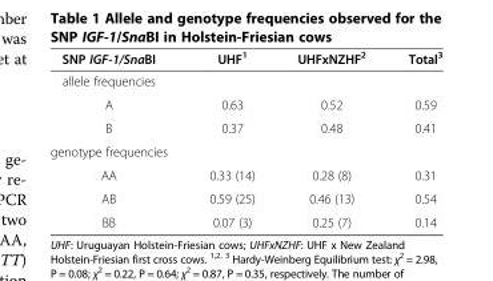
<table><thead><tr><td>SNP IGF-1/SnaBI</td><td>UHF<sup>1</sup></td><td>UHFxNZHF<sup>2</sup></td><td>Total<sup>3</sup></td></tr></thead><tbody><tr><td colspan="4">allele frequencies</td></tr><tr><td>A</td><td>0.63</td><td>0.52</td><td>0.59</td></tr><tr><td>B</td><td>0.37</td><td>0.48</td><td>0.41</td></tr><tr><td colspan="4">genotype frequencies</td></tr><tr><td>AA</td><td>0.33 (14)</td><td>0.28 (8)</td><td>0.31</td></tr><tr><td>AB</td><td>0.59 (25)</td><td>0.46 (13)</td><td>0.54</td></tr><tr><td>BB</td><td>0.07 (3)</td><td>0.25 (7)</td><td>0.14</td></tr></tbody></table>